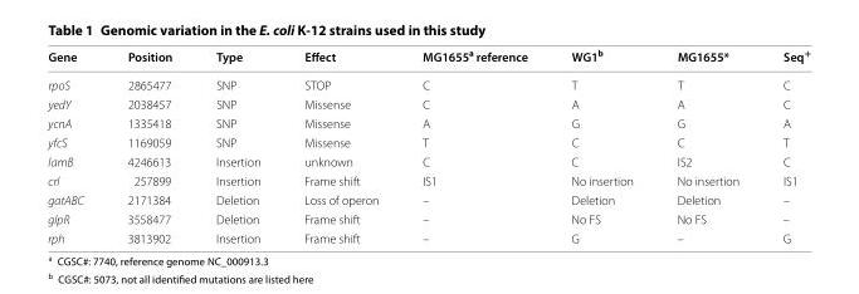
<table><thead><tr><td>Gene</td><td>Position</td><td>Type</td><td>Effect</td><td>MG1655<sup>a</sup> reference</td><td>WG1<sup>b</sup></td><td>MG1655*</td><td>Seq<sup>+</sup></td></tr></thead><tbody><tr><td>rpoS</td><td>2865477</td><td>SNP</td><td>STOP</td><td>C</td><td>T</td><td>T</td><td>C</td></tr><tr><td>yedY</td><td>2038457</td><td>SNP</td><td>Missense</td><td>C</td><td>A</td><td>A</td><td>C</td></tr><tr><td>ycnA</td><td>1335418</td><td>SNP</td><td>Missense</td><td>A</td><td>G</td><td>G</td><td>A</td></tr><tr><td>yfcS</td><td>1169059</td><td>SNP</td><td>Missense</td><td>T</td><td>C</td><td>C</td><td>T</td></tr><tr><td>lamB</td><td>4246613</td><td>Insertion</td><td>unknown</td><td>C</td><td>C</td><td>IS2</td><td>C</td></tr><tr><td>crl</td><td>257899</td><td>Insertion</td><td>Frame shift</td><td>IS1</td><td>No insertion</td><td>No insertion</td><td>IS1</td></tr><tr><td>gatABC</td><td>2171384</td><td>Deletion</td><td>Loss of operon</td><td>–</td><td>Deletion</td><td>Deletion</td><td>–</td></tr><tr><td>glpR</td><td>3558477</td><td>Deletion</td><td>Frame shift</td><td>–</td><td>No FS</td><td>No FS</td><td>–</td></tr><tr><td>rph</td><td>3813902</td><td>Insertion</td><td>Frame shift</td><td>–</td><td>G</td><td>–</td><td>G</td></tr></tbody></table>